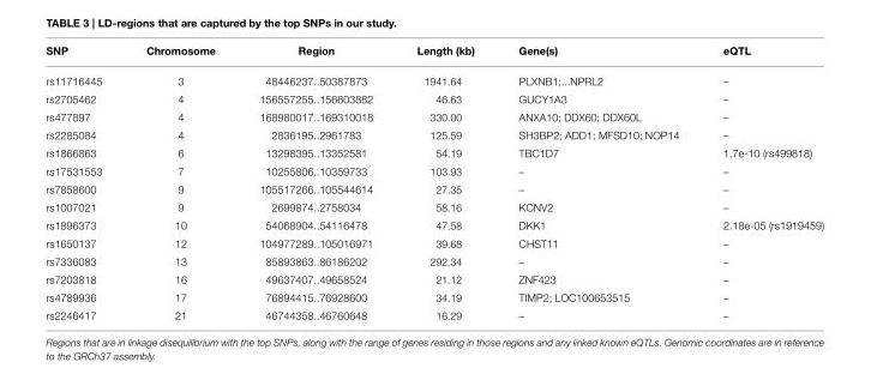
<table><thead><tr><td>SNP</td><td>Chromosome</td><td>Region</td><td>Length (kb)</td><td>Gene(s)</td><td>eQTL</td></tr></thead><tbody><tr><td>rs11716445</td><td>3</td><td>48446237..50387873</td><td>1941.64</td><td>PLXNB1;...NPRL2</td><td>–</td></tr><tr><td>rs2705462</td><td>4</td><td>156557255..156603882</td><td>46.63</td><td>GUCY1A3</td><td>–</td></tr><tr><td>rs477897</td><td>4</td><td>168980017..169310018</td><td>330.00</td><td>ANXA10; DDX60; DDX60L</td><td>–</td></tr><tr><td>rs2285084</td><td>4</td><td>2836195..2961783</td><td>125.59</td><td>SH3BP2; ADD1; MFSD10; NOP14</td><td>–</td></tr><tr><td>rs1866863</td><td>6</td><td>13298395..13352581</td><td>54.19</td><td>TBC1D7</td><td>1.7e-10 (rs499818)</td></tr><tr><td>rs17531553</td><td>7</td><td>10255806..10359733</td><td>103.93</td><td>–</td><td>–</td></tr><tr><td>rs7858600</td><td>9</td><td>105517266..105544614</td><td>27.35</td><td>–</td><td>–</td></tr><tr><td>rs1007021</td><td>9</td><td>2699874..2758034</td><td>58.16</td><td>KCNV2</td><td>–</td></tr><tr><td>rs1896373</td><td>10</td><td>54068904..54116478</td><td>47.58</td><td>DKK1</td><td>2.18e-05 (rs1919459)</td></tr><tr><td>rs1650137</td><td>12</td><td>104977289..105016971</td><td>39.68</td><td>CHST11</td><td>–</td></tr><tr><td>rs7336083</td><td>13</td><td>85893863..86186202</td><td>292.34</td><td>–</td><td>–</td></tr><tr><td>rs7203818</td><td>16</td><td>49637407..49658524</td><td>21.12</td><td>ZNF423</td><td>–</td></tr><tr><td>rs4789936</td><td>17</td><td>76894415..76928600</td><td>34.19</td><td>TIMP2; LOC100653515</td><td>–</td></tr><tr><td>rs2246417</td><td>21</td><td>46744358..46760648</td><td>16.29</td><td>–</td><td>–</td></tr></tbody></table>